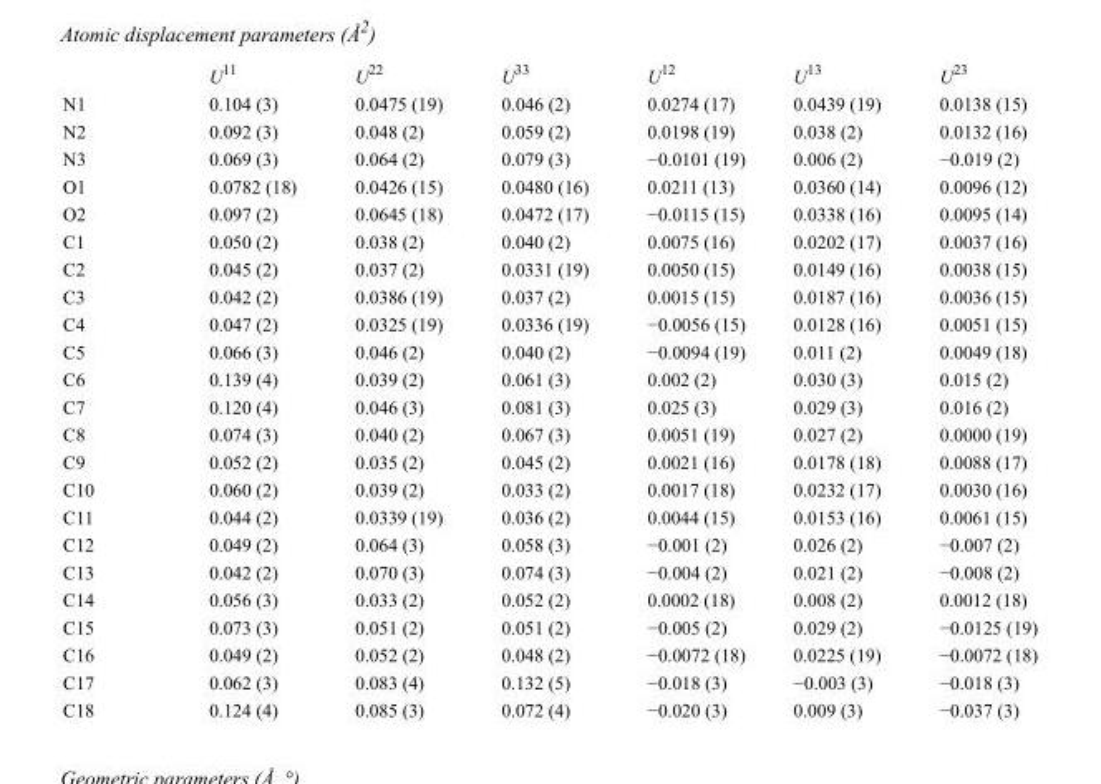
<table><thead><tr><td></td><td>U<sup>11</sup></td><td>U<sup>22</sup></td><td>U<sup>33</sup></td><td>U<sup>12</sup></td><td>U<sup>13</sup></td><td>U<sup>23</sup></td></tr></thead><tbody><tr><td>N1</td><td>0.104 (3)</td><td>0.0475 (19)</td><td>0.046 (2)</td><td>0.0274 (17)</td><td>0.0439 (19)</td><td>0.0138 (15)</td></tr><tr><td>N2</td><td>0.092 (3)</td><td>0.048 (2)</td><td>0.059 (2)</td><td>0.0198 (19)</td><td>0.038 (2)</td><td>0.0132 (16)</td></tr><tr><td>N3</td><td>0.069 (3)</td><td>0.064 (2)</td><td>0.079 (3)</td><td>−0.0101 (19)</td><td>0.006 (2)</td><td>−0.019 (2)</td></tr><tr><td>O1</td><td>0.0782 (18)</td><td>0.0426 (15)</td><td>0.0480 (16)</td><td>0.0211 (13)</td><td>0.0360 (14)</td><td>0.0096 (12)</td></tr><tr><td>O2</td><td>0.097 (2)</td><td>0.0645 (18)</td><td>0.0472 (17)</td><td>−0.0115 (15)</td><td>0.0338 (16)</td><td>0.0095 (14)</td></tr><tr><td>C1</td><td>0.050 (2)</td><td>0.038 (2)</td><td>0.040 (2)</td><td>0.0075 (16)</td><td>0.0202 (17)</td><td>0.0037 (16)</td></tr><tr><td>C2</td><td>0.045 (2)</td><td>0.037 (2)</td><td>0.0331 (19)</td><td>0.0050 (15)</td><td>0.0149 (16)</td><td>0.0038 (15)</td></tr><tr><td>C3</td><td>0.042 (2)</td><td>0.0386 (19)</td><td>0.037 (2)</td><td>0.0015 (15)</td><td>0.0187 (16)</td><td>0.0036 (15)</td></tr><tr><td>C4</td><td>0.047 (2)</td><td>0.0325 (19)</td><td>0.0336 (19)</td><td>−0.0056 (15)</td><td>0.0128 (16)</td><td>0.0051 (15)</td></tr><tr><td>C5</td><td>0.066 (3)</td><td>0.046 (2)</td><td>0.040 (2)</td><td>−0.0094 (19)</td><td>0.011 (2)</td><td>0.0049 (18)</td></tr><tr><td>C6</td><td>0.139 (4)</td><td>0.039 (2)</td><td>0.061 (3)</td><td>0.002 (2)</td><td>0.030 (3)</td><td>0.015 (2)</td></tr><tr><td>C7</td><td>0.120 (4)</td><td>0.046 (3)</td><td>0.081 (3)</td><td>0.025 (3)</td><td>0.029 (3)</td><td>0.016 (2)</td></tr><tr><td>C8</td><td>0.074 (3)</td><td>0.040 (2)</td><td>0.067 (3)</td><td>0.0051 (19)</td><td>0.027 (2)</td><td>0.0000 (19)</td></tr><tr><td>C9</td><td>0.052 (2)</td><td>0.035 (2)</td><td>0.045 (2)</td><td>0.0021 (16)</td><td>0.0178 (18)</td><td>0.0088 (17)</td></tr><tr><td>C10</td><td>0.060 (2)</td><td>0.039 (2)</td><td>0.033 (2)</td><td>0.0017 (18)</td><td>0.0232 (17)</td><td>0.0030 (16)</td></tr><tr><td>C11</td><td>0.044 (2)</td><td>0.0339 (19)</td><td>0.036 (2)</td><td>0.0044 (15)</td><td>0.0153 (16)</td><td>0.0061 (15)</td></tr><tr><td>C12</td><td>0.049 (2)</td><td>0.064 (3)</td><td>0.058 (3)</td><td>−0.001 (2)</td><td>0.026 (2)</td><td>−0.007 (2)</td></tr><tr><td>C13</td><td>0.042 (2)</td><td>0.070 (3)</td><td>0.074 (3)</td><td>−0.004 (2)</td><td>0.021 (2)</td><td>−0.008 (2)</td></tr><tr><td>C14</td><td>0.056 (3)</td><td>0.033 (2)</td><td>0.052 (2)</td><td>0.0002 (18)</td><td>0.008 (2)</td><td>0.0012 (18)</td></tr><tr><td>C15</td><td>0.073 (3)</td><td>0.051 (2)</td><td>0.051 (2)</td><td>−0.005 (2)</td><td>0.029 (2)</td><td>−0.0125 (19)</td></tr><tr><td>C16</td><td>0.049 (2)</td><td>0.052 (2)</td><td>0.048 (2)</td><td>−0.0072 (18)</td><td>0.0225 (19)</td><td>−0.0072 (18)</td></tr><tr><td>C17</td><td>0.062 (3)</td><td>0.083 (4)</td><td>0.132 (5)</td><td>−0.018 (3)</td><td>−0.003 (3)</td><td>−0.018 (3)</td></tr><tr><td>C18</td><td>0.124 (4)</td><td>0.085 (3)</td><td>0.072 (4)</td><td>−0.020 (3)</td><td>0.009 (3)</td><td>−0.037 (3)</td></tr></tbody></table>